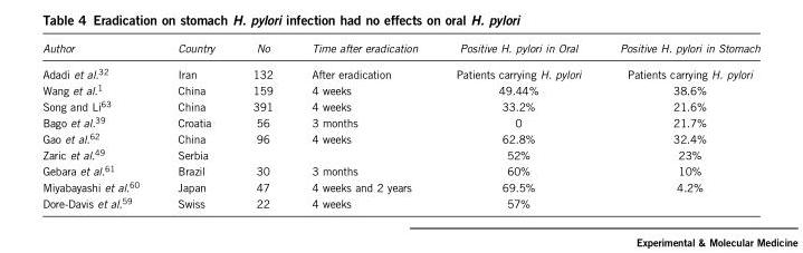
<table><thead><tr><td>Author</td><td>Country</td><td>No</td><td>Time after eradication</td><td>Positive H. pylori in Oral</td><td>Positive H. pylori in Stomach</td></tr></thead><tbody><tr><td>Adadi et al.<sup>32</sup></td><td>Iran</td><td>132</td><td>After eradication</td><td>Patients carrying H. pylori</td><td>Patients carrying H. pylori</td></tr><tr><td>Wang et al.<sup>1</sup></td><td>China</td><td>159</td><td>4 weeks</td><td>49.44%</td><td>38.6%</td></tr><tr><td>Song and Li<sup>63</sup></td><td>China</td><td>391</td><td>4 weeks</td><td>33.2%</td><td>21.6%</td></tr><tr><td>Bago et al.<sup>39</sup></td><td>Croatia</td><td>56</td><td>3 months</td><td>0</td><td>21.7%</td></tr><tr><td>Gao et al.<sup>62</sup></td><td>China</td><td>96</td><td>4 weeks</td><td>62.8%</td><td>32.4%</td></tr><tr><td>Zaric et al.<sup>49</sup></td><td>Serbia</td><td></td><td></td><td>52%</td><td>23%</td></tr><tr><td>Gebara et al.<sup>61</sup></td><td>Brazil</td><td>30</td><td>3 months</td><td>60%</td><td>10%</td></tr><tr><td>Miyabayashi et al.<sup>60</sup></td><td>Japan</td><td>47</td><td>4 weeks and 2 years</td><td>69.5%</td><td>4.2%</td></tr><tr><td>Dore-Davis et al.<sup>59</sup></td><td>Swiss</td><td>22</td><td>4 weeks</td><td>57%</td><td></td></tr></tbody></table>